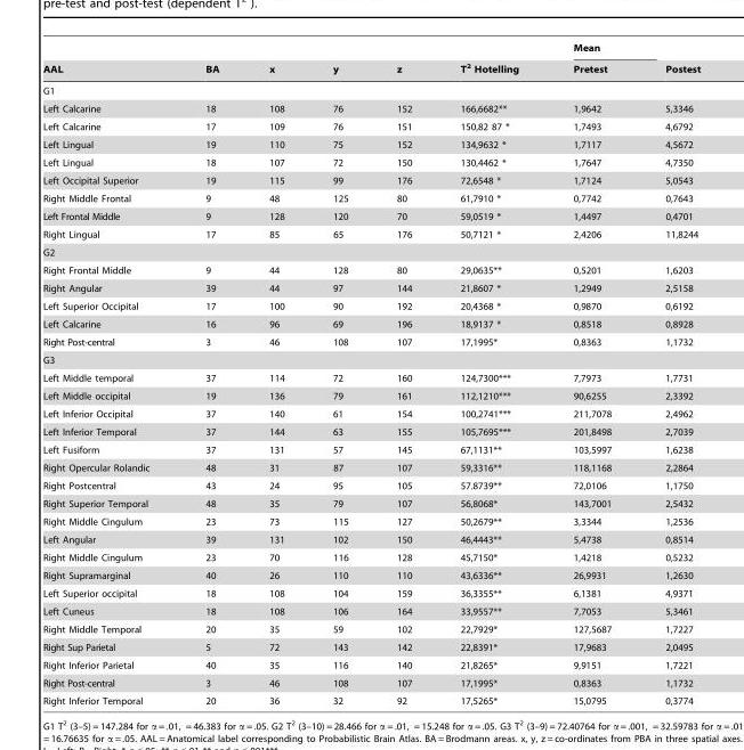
<table><thead><tr><td rowspan="2">AAL</td><td rowspan="2">BA</td><td rowspan="2">x</td><td rowspan="2">y</td><td rowspan="2">z</td><td rowspan="2">T<sup>2</sup> Hotelling</td><td rowspan="2">Mean Pretest</td><td rowspan="2">Postest</td></tr><tr></tr></thead><tbody><tr><td colspan="8">G1</td></tr><tr><td>Left Calcarine</td><td>18</td><td>108</td><td>76</td><td>152</td><td>166,6682**</td><td>1,9642</td><td>5,3346</td></tr><tr><td>Left Calcarine</td><td>17</td><td>109</td><td>76</td><td>151</td><td>150,82 87 *</td><td>1,7493</td><td>4,6792</td></tr><tr><td>Left Lingual</td><td>19</td><td>110</td><td>75</td><td>152</td><td>134,9632 *</td><td>1,7117</td><td>4,5672</td></tr><tr><td>Left Lingual</td><td>18</td><td>107</td><td>72</td><td>150</td><td>130,4462 *</td><td>1,7647</td><td>4,7350</td></tr><tr><td>Left Occipital Superior</td><td>19</td><td>115</td><td>99</td><td>176</td><td>72,6548 *</td><td>1,7124</td><td>5,0543</td></tr><tr><td>Right Middle Frontal</td><td>9</td><td>48</td><td>125</td><td>80</td><td>61,7910 *</td><td>0,7742</td><td>0,7643</td></tr><tr><td>Left Frontal Middle</td><td>9</td><td>128</td><td>120</td><td>70</td><td>59,0519 *</td><td>1,4497</td><td>0,4701</td></tr><tr><td>Right Lingual</td><td>17</td><td>85</td><td>65</td><td>176</td><td>50,7121 *</td><td>2,4206</td><td>11,8244</td></tr><tr><td colspan="8">G2</td></tr><tr><td>Right Frontal Middle</td><td>9</td><td>44</td><td>128</td><td>80</td><td>29,0635**</td><td>0,5201</td><td>1,6203</td></tr><tr><td>Right Angular</td><td>39</td><td>44</td><td>97</td><td>144</td><td>21,8607 *</td><td>1,2949</td><td>2,5158</td></tr><tr><td>Left Superior Occipital</td><td>17</td><td>100</td><td>90</td><td>192</td><td>20,4368 *</td><td>0,9870</td><td>0,6192</td></tr><tr><td>Left Calcarine</td><td>16</td><td>96</td><td>69</td><td>196</td><td>18,9137 *</td><td>0,8518</td><td>0,8928</td></tr><tr><td>Right Post-central</td><td>3</td><td>46</td><td>108</td><td>107</td><td>17,1995*</td><td>0,8363</td><td>1,1732</td></tr><tr><td colspan="8">G3</td></tr><tr><td>Left Middle temporal</td><td>37</td><td>114</td><td>72</td><td>160</td><td>124,7300***</td><td>7,7973</td><td>1,7731</td></tr><tr><td>Left Middle occipital</td><td>19</td><td>136</td><td>79</td><td>161</td><td>112,1210***</td><td>90,6255</td><td>2,3392</td></tr><tr><td>Left Inferior Occipital</td><td>37</td><td>140</td><td>61</td><td>154</td><td>100,2741***</td><td>211,7078</td><td>2,4962</td></tr><tr><td>Left Inferior Temporal</td><td>37</td><td>144</td><td>63</td><td>155</td><td>105,7695***</td><td>201,8498</td><td>2,7039</td></tr><tr><td>Left Fusiform</td><td>37</td><td>131</td><td>57</td><td>145</td><td>67,1131**</td><td>103,5997</td><td>1,6238</td></tr><tr><td>Right Opercular Rolandic</td><td>48</td><td>31</td><td>87</td><td>107</td><td>59,3316**</td><td>118,1168</td><td>2,2864</td></tr><tr><td>Right Postcentral</td><td>43</td><td>24</td><td>95</td><td>105</td><td>57.8739**</td><td>72,0106</td><td>1,1750</td></tr><tr><td>Right Superior Temporal</td><td>48</td><td>35</td><td>79</td><td>107</td><td>56,8068*</td><td>143,7001</td><td>2,5432</td></tr><tr><td>Right Middle Cingulum</td><td>23</td><td>73</td><td>115</td><td>127</td><td>50,2679**</td><td>3,3344</td><td>1,2536</td></tr><tr><td>Left Angular</td><td>39</td><td>131</td><td>102</td><td>150</td><td>46,4443**</td><td>5,4738</td><td>0,8514</td></tr><tr><td>Right Middle Cingulum</td><td>23</td><td>70</td><td>116</td><td>128</td><td>45,7150*</td><td>1,4218</td><td>0,5232</td></tr><tr><td>Right Supramarginal</td><td>40</td><td>26</td><td>110</td><td>110</td><td>43,6336**</td><td>26,9931</td><td>1,2630</td></tr><tr><td>Left Superior occipital</td><td>18</td><td>108</td><td>104</td><td>159</td><td>36,3355**</td><td>6,1381</td><td>4,9371</td></tr><tr><td>Left Cuneus</td><td>18</td><td>108</td><td>106</td><td>164</td><td>33,9557**</td><td>7,7053</td><td>5,3461</td></tr><tr><td>Right Middle Temporal</td><td>20</td><td>35</td><td>59</td><td>102</td><td>22,7929*</td><td>127,5687</td><td>1,7227</td></tr><tr><td>Right Sup Parietal</td><td>5</td><td>72</td><td>143</td><td>142</td><td>22,8391*</td><td>17,9683</td><td>2,0495</td></tr><tr><td>Right Inferior Parietal</td><td>40</td><td>35</td><td>116</td><td>140</td><td>21,8265*</td><td>9,9151</td><td>1,7221</td></tr><tr><td>Right Post-central</td><td>3</td><td>46</td><td>108</td><td>107</td><td>17,1995*</td><td>0,8363</td><td>1,1732</td></tr><tr><td>Right Inferior Temporal</td><td>20</td><td>36</td><td>32</td><td>92</td><td>17,5265*</td><td>15,0795</td><td>0,3774</td></tr></tbody></table>